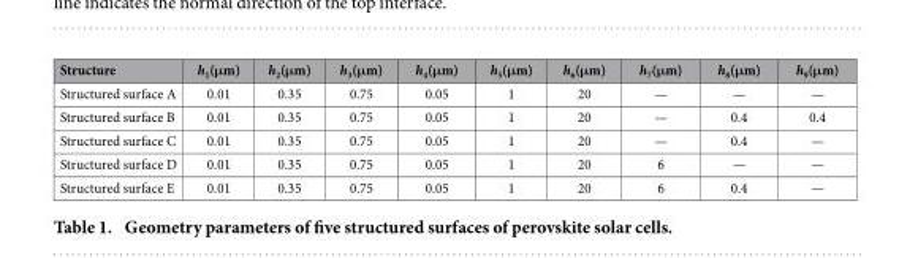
<table><thead><tr><td>Structure</td><td>h<sub>1</sub>(μm)</td><td>h<sub>2</sub>(μm)</td><td>h<sub>3</sub>(μm)</td><td>h<sub>4</sub>(μm)</td><td>h<sub>5</sub>(μm)</td><td>h<sub>6</sub>(μm)</td><td>h<sub>7</sub>(μm)</td><td>h<sub>8</sub>(μm)</td><td>h<sub>9</sub>(μm)</td></tr></thead><tbody><tr><td>Structured surface A</td><td>0.01</td><td>0.35</td><td>0.75</td><td>0.05</td><td>1</td><td>20</td><td>—</td><td>—</td><td>—</td></tr><tr><td>Structured surface B</td><td>0.01</td><td>0.35</td><td>0.75</td><td>0.05</td><td>1</td><td>20</td><td>—</td><td>0.4</td><td>0.4</td></tr><tr><td>Structured surface C</td><td>0.01</td><td>0.35</td><td>0.75</td><td>0.05</td><td>1</td><td>20</td><td>—</td><td>0.4</td><td>—</td></tr><tr><td>Structured surface D</td><td>0.01</td><td>0.35</td><td>0.75</td><td>0.05</td><td>1</td><td>20</td><td>6</td><td>—</td><td>—</td></tr><tr><td>Structured surface E</td><td>0.01</td><td>0.35</td><td>0.75</td><td>0.05</td><td>1</td><td>20</td><td>6</td><td>0.4</td><td>—</td></tr></tbody></table>